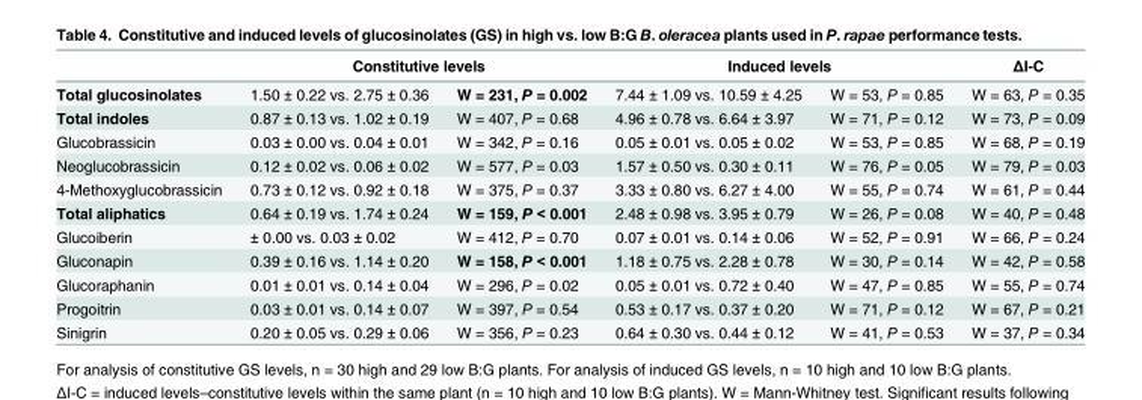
<table><thead><tr><td rowspan="2">Total glucosinolates</td><td colspan="2">Constitutive levels</td><td colspan="2">Induced levels</td><td rowspan="2">ΔI-C W = 63, P = 0.35</td></tr><tr><td>1.50 ± 0.22 vs. 2.75 ± 0.36</td><td>W = 231, P = 0.002</td><td>7.44 ± 1.09 vs. 10.59 ± 4.25</td><td>W = 53, P = 0.85</td></tr></thead><tbody><tr><td>Total indoles</td><td>0.87 ± 0.13 vs. 1.02 ± 0.19</td><td>W = 407, P = 0.68</td><td>4.96 ± 0.78 vs. 6.64 ± 3.97</td><td>W = 71, P = 0.12</td><td>W = 73, P = 0.09</td></tr><tr><td>Glucobrassicin</td><td>0.03 ± 0.00 vs. 0.04 ± 0.01</td><td>W = 342, P = 0.16</td><td>0.05 ± 0.01 vs. 0.05 ± 0.02</td><td>W = 53, P = 0.85</td><td>W = 68, P = 0.19</td></tr><tr><td>Neoglucobrassicin</td><td>0.12 ± 0.02 vs. 0.06 ± 0.02</td><td>W = 577, P = 0.03</td><td>1.57 ± 0.50 vs. 0.30 ± 0.11</td><td>W = 76, P = 0.05</td><td>W = 79, P = 0.03</td></tr><tr><td>4-Methoxyglucobrassicin</td><td>0.73 ± 0.12 vs. 0.92 ± 0.18</td><td>W = 375, P = 0.37</td><td>3.33 ± 0.80 vs. 6.27 ± 4.00</td><td>W = 55, P = 0.74</td><td>W = 61, P = 0.44</td></tr><tr><td>Total aliphatics</td><td>0.64 ± 0.19 vs. 1.74 ± 0.24</td><td>W = 159, P &lt; 0.001</td><td>2.48 ± 0.98 vs. 3.95 ± 0.79</td><td>W = 26, P = 0.08</td><td>W = 40, P = 0.48</td></tr><tr><td>Glucoiberin</td><td>± 0.00 vs. 0.03 ± 0.02</td><td>W = 412, P = 0.70</td><td>0.07 ± 0.01 vs. 0.14 ± 0.06</td><td>W = 52, P = 0.91</td><td>W = 66, P = 0.24</td></tr><tr><td>Gluconapin</td><td>0.39 ± 0.16 vs. 1.14 ± 0.20</td><td>W = 158, P &lt; 0.001</td><td>1.18 ± 0.75 vs. 2.28 ± 0.78</td><td>W = 30, P = 0.14</td><td>W = 42, P = 0.58</td></tr><tr><td>Glucoraphanin</td><td>0.01 ± 0.01 vs. 0.14 ± 0.04</td><td>W = 296, P = 0.02</td><td>0.05 ± 0.01 vs. 0.72 ± 0.40</td><td>W = 47, P = 0.85</td><td>W = 55, P = 0.74</td></tr><tr><td>Progoitrin</td><td>0.03 ± 0.01 vs. 0.14 ± 0.07</td><td>W = 397, P = 0.54</td><td>0.53 ± 0.17 vs. 0.37 ± 0.20</td><td>W = 71, P = 0.12</td><td>W = 67, P = 0.21</td></tr><tr><td>Sinigrin</td><td>0.20 ± 0.05 vs. 0.29 ± 0.06</td><td>W = 356, P = 0.23</td><td>0.64 ± 0.30 vs. 0.44 ± 0.12</td><td>W = 41, P = 0.53</td><td>W = 37, P = 0.34</td></tr></tbody></table>